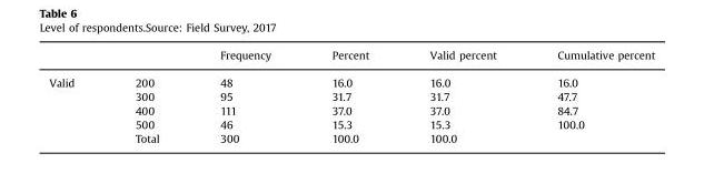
<table><thead><tr><td></td><td></td><td>Frequency</td><td>Percent</td><td>Valid percent</td><td>Cumulative percent</td></tr></thead><tbody><tr><td rowspan="5">Valid</td><td>200</td><td>48</td><td>16.0</td><td>16.0</td><td>16.0</td></tr><tr><td>300</td><td>95</td><td>31.7</td><td>31.7</td><td>47.7</td></tr><tr><td>400</td><td>111</td><td>37.0</td><td>37.0</td><td>84.7</td></tr><tr><td>500</td><td>46</td><td>15.3</td><td>15.3</td><td>100.0</td></tr><tr><td>Total</td><td>300</td><td>100.0</td><td>100.0</td><td></td></tr></tbody></table>